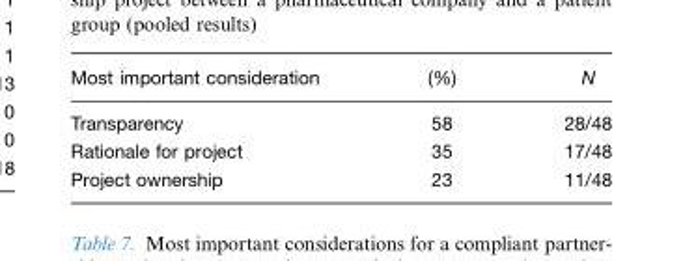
<table><thead><tr><td>Most important consideration</td><td>(%)</td><td>N</td></tr></thead><tbody><tr><td>Transparency</td><td>58</td><td>28/48</td></tr><tr><td>Rationale for project</td><td>35</td><td>17/48</td></tr><tr><td>Project ownership</td><td>23</td><td>11/48</td></tr></tbody></table>